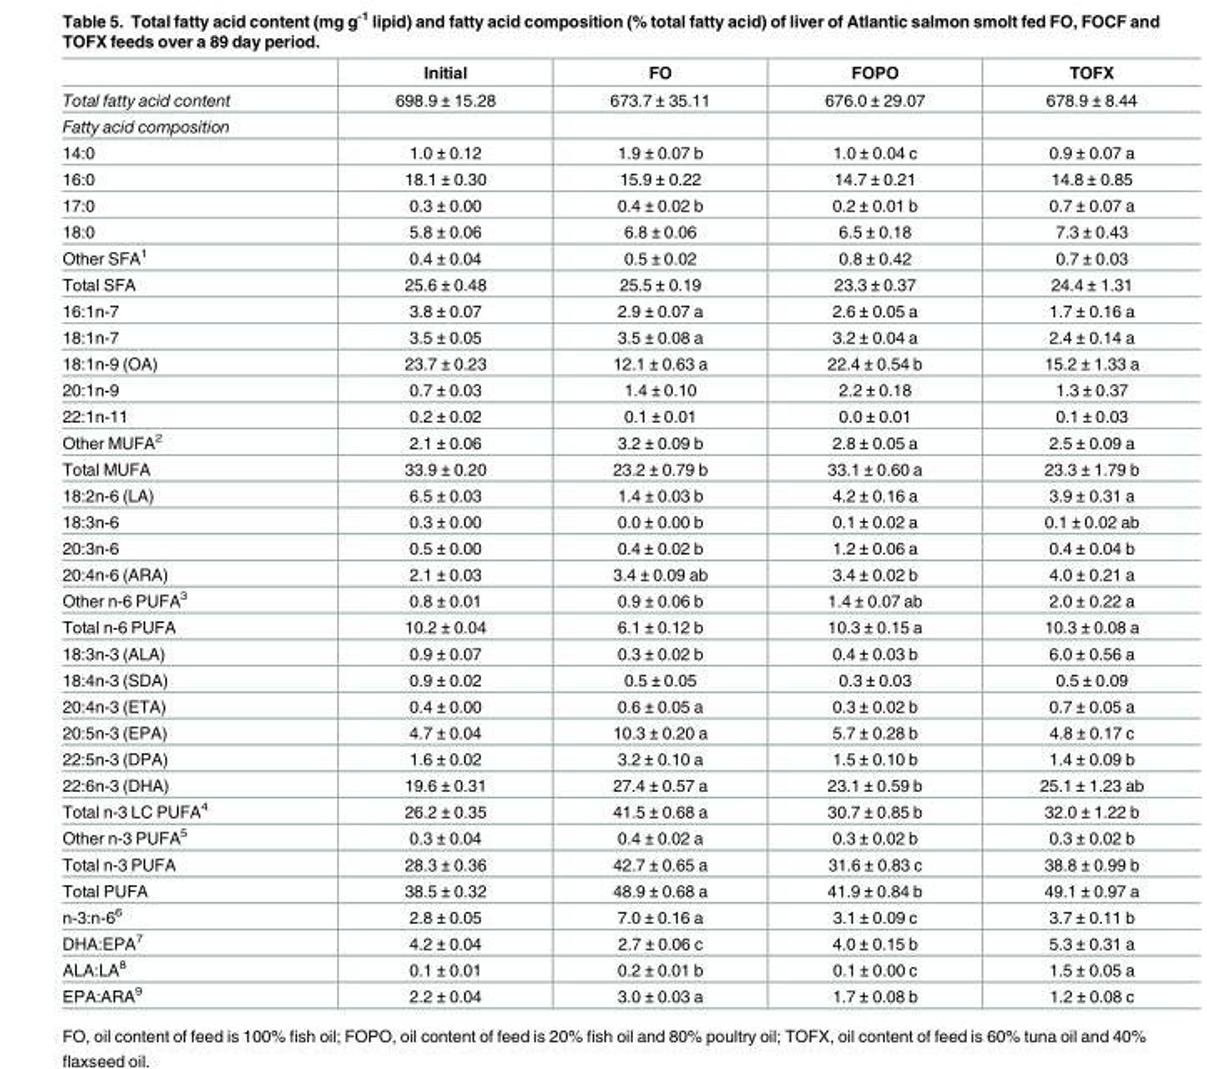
<table><thead><tr><td></td><td>Initial</td><td>FO</td><td>FOPO</td><td>TOFX</td></tr></thead><tbody><tr><td>Total fatty acid content</td><td>698.9 ± 15.28</td><td>673.7 ± 35.11</td><td>676.0 ± 29.07</td><td>678.9 ± 8.44</td></tr><tr><td colspan="5">Fatty acid composition</td></tr><tr><td>14:0</td><td>1.0 ± 0.12</td><td>1.9 ± 0.07 b</td><td>1.0 ± 0.04 c</td><td>0.9 ± 0.07 a</td></tr><tr><td>16:0</td><td>18.1 ± 0.30</td><td>15.9 ± 0.22</td><td>14.7 ± 0.21</td><td>14.8 ± 0.85</td></tr><tr><td>17:0</td><td>0.3 ± 0.00</td><td>0.4 ± 0.02 b</td><td>0.2 ± 0.01 b</td><td>0.7 ± 0.07 a</td></tr><tr><td>18:0</td><td>5.8 ± 0.06</td><td>6.8 ± 0.06</td><td>6.5 ± 0.18</td><td>7.3 ± 0.43</td></tr><tr><td>Other SFA<sup>1</sup></td><td>0.4 ± 0.04</td><td>0.5 ± 0.02</td><td>0.8 ± 0.42</td><td>0.7 ± 0.03</td></tr><tr><td>Total SFA</td><td>25.6 ± 0.48</td><td>25.5 ± 0.19</td><td>23.3 ± 0.37</td><td>24.4 ± 1.31</td></tr><tr><td>16:1n-7</td><td>3.8 ± 0.07</td><td>2.9 ± 0.07 a</td><td>2.6 ± 0.05 a</td><td>1.7 ± 0.16 a</td></tr><tr><td>18:1n-7</td><td>3.5 ± 0.05</td><td>3.5 ± 0.08 a</td><td>3.2 ± 0.04 a</td><td>2.4 ± 0.14 a</td></tr><tr><td>18:1n-9 (OA)</td><td>23.7 ± 0.23</td><td>12.1 ± 0.63 a</td><td>22.4 ± 0.54 b</td><td>15.2 ± 1.33 a</td></tr><tr><td>20:1n-9</td><td>0.7 ± 0.03</td><td>1.4 ± 0.10</td><td>2.2 ± 0.18</td><td>1.3 ± 0.37</td></tr><tr><td>22:1n-11</td><td>0.2 ± 0.02</td><td>0.1 ± 0.01</td><td>0.0 ± 0.01</td><td>0.1 ± 0.03</td></tr><tr><td>Other MUFA<sup>2</sup></td><td>2.1 ± 0.06</td><td>3.2 ± 0.09 b</td><td>2.8 ± 0.05 a</td><td>2.5 ± 0.09 a</td></tr><tr><td>Total MUFA</td><td>33.9 ± 0.20</td><td>23.2 ± 0.79 b</td><td>33.1 ± 0.60 a</td><td>23.3 ± 1.79 b</td></tr><tr><td>18:2n-6 (LA)</td><td>6.5 ± 0.03</td><td>1.4 ± 0.03 b</td><td>4.2 ± 0.16 a</td><td>3.9 ± 0.31 a</td></tr><tr><td>18:3n-6</td><td>0.3 ± 0.00</td><td>0.0 ± 0.00 b</td><td>0.1 ± 0.02 a</td><td>0.1 ± 0.02 ab</td></tr><tr><td>20:3n-6</td><td>0.5 ± 0.00</td><td>0.4 ± 0.02 b</td><td>1.2 ± 0.06 a</td><td>0.4 ± 0.04 b</td></tr><tr><td>20:4n-6 (ARA)</td><td>2.1 ± 0.03</td><td>3.4 ± 0.09 ab</td><td>3.4 ± 0.02 b</td><td>4.0 ± 0.21 a</td></tr><tr><td>Other n-6 PUFA<sup>3</sup></td><td>0.8 ± 0.01</td><td>0.9 ± 0.06 b</td><td>1.4 ± 0.07 ab</td><td>2.0 ± 0.22 a</td></tr><tr><td>Total n-6 PUFA</td><td>10.2 ± 0.04</td><td>6.1 ± 0.12 b</td><td>10.3 ± 0.15 a</td><td>10.3 ± 0.08 a</td></tr><tr><td>18:3n-3 (ALA)</td><td>0.9 ± 0.07</td><td>0.3 ± 0.02 b</td><td>0.4 ± 0.03 b</td><td>6.0 ± 0.56 a</td></tr><tr><td>18:4n-3 (SDA)</td><td>0.9 ± 0.02</td><td>0.5 ± 0.05</td><td>0.3 ± 0.03</td><td>0.5 ± 0.09</td></tr><tr><td>20:4n-3 (ETA)</td><td>0.4 ± 0.00</td><td>0.6 ± 0.05 a</td><td>0.3 ± 0.02 b</td><td>0.7 ± 0.05 a</td></tr><tr><td>20:5n-3 (EPA)</td><td>4.7 ± 0.04</td><td>10.3 ± 0.20 a</td><td>5.7 ± 0.28 b</td><td>4.8 ± 0.17 c</td></tr><tr><td>22:5n-3 (DPA)</td><td>1.6 ± 0.02</td><td>3.2 ± 0.10 a</td><td>1.5 ± 0.10 b</td><td>1.4 ± 0.09 b</td></tr><tr><td>22:6n-3 (DHA)</td><td>19.6 ± 0.31</td><td>27.4 ± 0.57 a</td><td>23.1 ± 0.59 b</td><td>25.1 ± 1.23 ab</td></tr><tr><td>Total n-3 LC PUFA<sup>4</sup></td><td>26.2 ± 0.35</td><td>41.5 ± 0.68 a</td><td>30.7 ± 0.85 b</td><td>32.0 ± 1.22 b</td></tr><tr><td>Other n-3 PUFA<sup>5</sup></td><td>0.3 ± 0.04</td><td>0.4 ± 0.02 a</td><td>0.3 ± 0.02 b</td><td>0.3 ± 0.02 b</td></tr><tr><td>Total n-3 PUFA</td><td>28.3 ± 0.36</td><td>42.7 ± 0.65 a</td><td>31.6 ± 0.83 c</td><td>38.8 ± 0.99 b</td></tr><tr><td>Total PUFA</td><td>38.5 ± 0.32</td><td>48.9 ± 0.68 a</td><td>41.9 ± 0.84 b</td><td>49.1 ± 0.97 a</td></tr><tr><td>n-3:n-6<sup>6</sup></td><td>2.8 ± 0.05</td><td>7.0 ± 0.16 a</td><td>3.1 ± 0.09 c</td><td>3.7 ± 0.11 b</td></tr><tr><td>DHA:EPA<sup>7</sup></td><td>4.2 ± 0.04</td><td>2.7 ± 0.06 c</td><td>4.0 ± 0.15 b</td><td>5.3 ± 0.31 a</td></tr><tr><td>ALA:LA<sup>8</sup></td><td>0.1 ± 0.01</td><td>0.2 ± 0.01 b</td><td>0.1 ± 0.00 c</td><td>1.5 ± 0.05 a</td></tr><tr><td>EPA:ARA<sup>9</sup></td><td>2.2 ± 0.04</td><td>3.0 ± 0.03 a</td><td>1.7 ± 0.08 b</td><td>1.2 ± 0.08 c</td></tr></tbody></table>